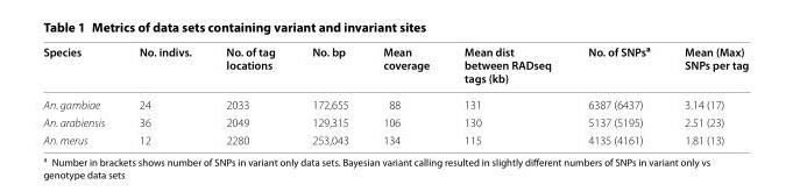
<table><thead><tr><td>Species</td><td>No. indivs.</td><td>No. of tag locations</td><td>No. bp</td><td>Mean coverage</td><td>Mean dist between RADseq tags (kb)</td><td>No. of SNPs<sup>a</sup></td><td>Mean (Max) SNPs per tag</td></tr></thead><tbody><tr><td>An. gambiae</td><td>24</td><td>2033</td><td>172,655</td><td>88</td><td>131</td><td>6387 (6437)</td><td>3.14 (17)</td></tr><tr><td>An. arabiensis</td><td>36</td><td>2049</td><td>129,315</td><td>106</td><td>130</td><td>5137 (5195)</td><td>2.51 (23)</td></tr><tr><td>An. merus</td><td>12</td><td>2280</td><td>253,043</td><td>134</td><td>115</td><td>4135 (4161)</td><td>1.81 (13)</td></tr></tbody></table>